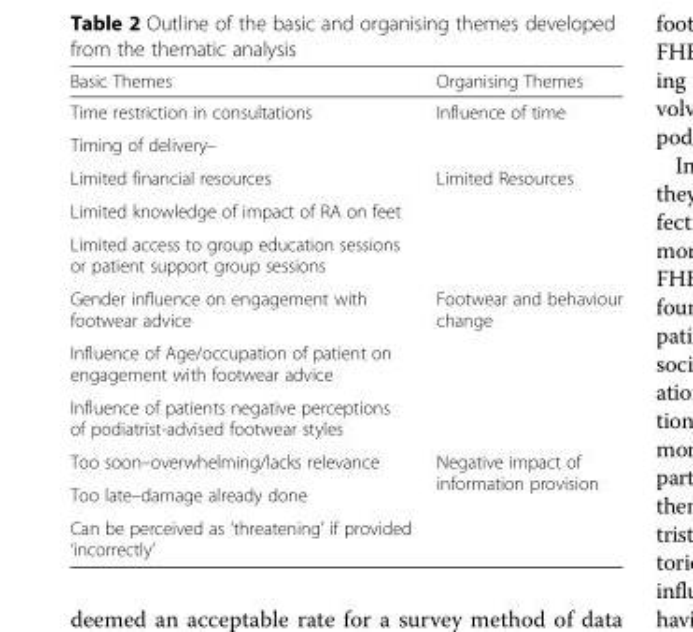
<table><thead><tr><td>Basic Themes</td><td>Organising Themes</td></tr></thead><tbody><tr><td>Time restriction in consultations</td><td rowspan="2">Influence of time</td></tr><tr><td>Timing of delivery–</td></tr><tr><td>Limited financial resources</td><td rowspan="3">Limited Resources</td></tr><tr><td>Limited knowledge of impact of RA on feet</td></tr><tr><td>Limited access to group education sessions or patient support group sessions</td></tr><tr><td>Gender influence on engagement with footwear advice</td><td rowspan="3">Footwear and behaviour change</td></tr><tr><td>Influence of Age/occupation of patient on engagement with footwear advice</td></tr><tr><td>Influence of patients negative perceptions of podiatrist-advised footwear styles</td></tr><tr><td>Too soon–overwhelming/lacks relevance</td><td rowspan="3">Negative impact of information provision</td></tr><tr><td>Too late–damage already done</td></tr><tr><td>Can be perceived as ‘threatening’ if provided ‘incorrectly’</td></tr></tbody></table>